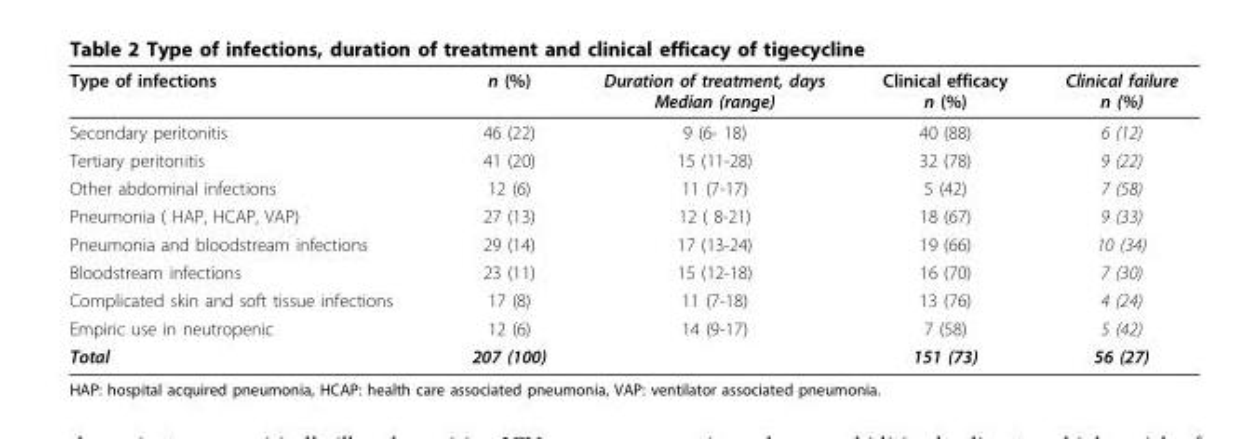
<table><thead><tr><td>Type of infections</td><td>n (%)</td><td>Duration of treatment, days Median (range)</td><td>Clinical efficacy n (%)</td><td>Clinical failure n (%)</td></tr></thead><tbody><tr><td>Secondary peritonitis</td><td>46 (22)</td><td>9 (6- 18)</td><td>40 (88)</td><td>6 (12)</td></tr><tr><td>Tertiary peritonitis</td><td>41 (20)</td><td>15 (11-28)</td><td>32 (78)</td><td>9 (22)</td></tr><tr><td>Other abdominal infections</td><td>12 (6)</td><td>11 (7-17)</td><td>5 (42)</td><td>7 (58)</td></tr><tr><td>Pneumonia ( HAP, HCAP, VAP)</td><td>27 (13)</td><td>12 ( 8-21)</td><td>18 (67)</td><td>9 (33)</td></tr><tr><td>Pneumonia and bloodstream infections</td><td>29 (14)</td><td>17 (13-24)</td><td>19 (66)</td><td>10 (34)</td></tr><tr><td>Bloodstream infections</td><td>23 (11)</td><td>15 (12-18)</td><td>16 (70)</td><td>7 (30)</td></tr><tr><td>Complicated skin and soft tissue infections</td><td>17 (8)</td><td>11 (7-18)</td><td>13 (76)</td><td>4 (24)</td></tr><tr><td>Empiric use in neutropenic</td><td>12 (6)</td><td>14 (9-17)</td><td>7 (58)</td><td>5 (42)</td></tr><tr><td>Total</td><td>207 (100)</td><td></td><td>151 (73)</td><td>56 (27)</td></tr></tbody></table>